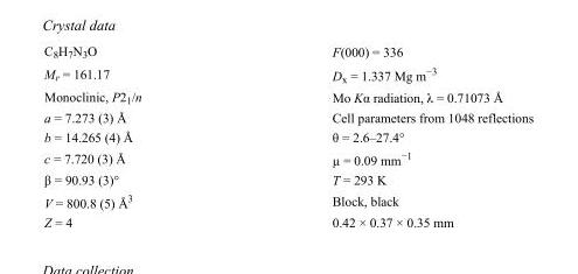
<table><tbody><tr><td>C<sub>8</sub>H<sub>7</sub>N<sub>3</sub>O</td><td>F(000) = 336</td></tr><tr><td>M<sub>r</sub> = 161.17</td><td>D<sub>x</sub> = 1.337 Mg m<sup>−3</sup></td></tr><tr><td>Monoclinic, P2<sub>1</sub>/n</td><td>Mo Kα radiation, λ = 0.71073 Å</td></tr><tr><td>a = 7.273 (3) Å</td><td>Cell parameters from 1048 reflections</td></tr><tr><td>b = 14.265 (4) Å</td><td>θ = 2.6–27.4°</td></tr><tr><td>c = 7.720 (3) Å</td><td>µ = 0.09 mm<sup>−1</sup></td></tr><tr><td>β = 90.93 (3)°</td><td>T = 293 K</td></tr><tr><td>V = 800.8 (5) Å<sup>3</sup></td><td>Block, black</td></tr><tr><td>Z = 4</td><td>0.42 × 0.37 × 0.35 mm</td></tr></tbody></table>